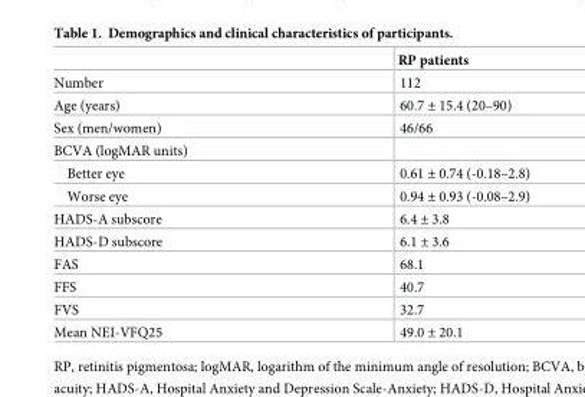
<table><thead><tr><td></td><td>RP patients</td></tr></thead><tbody><tr><td>Number</td><td>112</td></tr><tr><td>Age (years)</td><td>60.7 ± 15.4 (20–90)</td></tr><tr><td>Sex (men/women)</td><td>46/66</td></tr><tr><td colspan="2">BCVA (logMAR units)</td></tr><tr><td>Better eye</td><td>0.61 ± 0.74 (-0.18–2.8)</td></tr><tr><td>Worse eye</td><td>0.94 ± 0.93 (-0.08–2.9)</td></tr><tr><td>HADS-A subscore</td><td>6.4 ± 3.8</td></tr><tr><td>HADS-D subscore</td><td>6.1 ± 3.6</td></tr><tr><td>FAS</td><td>68.1</td></tr><tr><td>FFS</td><td>40.7</td></tr><tr><td>FVS</td><td>32.7</td></tr><tr><td>Mean NEI-VFQ25</td><td>49.0 ± 20.1</td></tr></tbody></table>